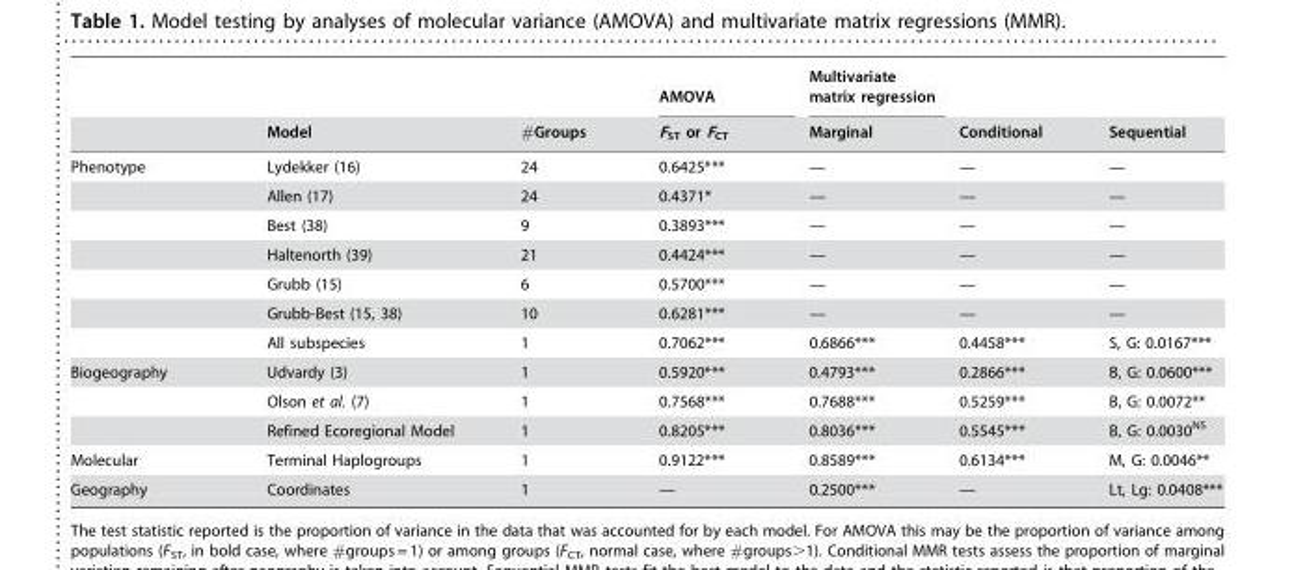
<table><thead><tr><td rowspan="2"></td><td rowspan="2">Model</td><td rowspan="2">#Groups</td><td rowspan="2">AMOVA F<sub>ST</sub> or F<sub>CT</sub></td><td rowspan="2">Multivariate matrix regression Marginal</td><td rowspan="2">Conditional</td><td rowspan="2">Sequential</td></tr><tr></tr></thead><tbody><tr><td rowspan="7">Phenotype</td><td>Lydekker (16)</td><td>24</td><td>0.6425***</td><td>—</td><td>—</td><td>—</td></tr><tr><td>Allen (17)</td><td>24</td><td>0.4371*</td><td>—</td><td>—</td><td>—</td></tr><tr><td>Best (38)</td><td>9</td><td>0.3893***</td><td>—</td><td>—</td><td>—</td></tr><tr><td>Haltenorth (39)</td><td>21</td><td>0.4424***</td><td>—</td><td>—</td><td>—</td></tr><tr><td>Grubb (15)</td><td>6</td><td>0.5700***</td><td>—</td><td>—</td><td>—</td></tr><tr><td>Grubb-Best (15, 38)</td><td>10</td><td>0.6281***</td><td>—</td><td>—</td><td>—</td></tr><tr><td>All subspecies</td><td>1</td><td>0.7062***</td><td>0.6866***</td><td>0.4458***</td><td>S, G: 0.0167***</td></tr><tr><td rowspan="3">Biogeography</td><td>Udvardy (3)</td><td>1</td><td>0.5920***</td><td>0.4793***</td><td>0.2866***</td><td>B, G: 0.0600***</td></tr><tr><td>Olson et al. (7)</td><td>1</td><td>0.7568***</td><td>0.7688***</td><td>0.5259***</td><td>B, G: 0.0072**</td></tr><tr><td>Refined Ecoregional Model</td><td>1</td><td>0.8205***</td><td>0.8036***</td><td>0.5545***</td><td>B, G: 0.0030<sup>NS</sup></td></tr><tr><td>Molecular</td><td>Terminal Haplogroups</td><td>1</td><td>0.9122***</td><td>0.8589***</td><td>0.6134***</td><td>M, G: 0.0046**</td></tr><tr><td>Geography</td><td>Coordinates</td><td>1</td><td>—</td><td>0.2500***</td><td>—</td><td>Lt, Lg: 0.0408***</td></tr></tbody></table>